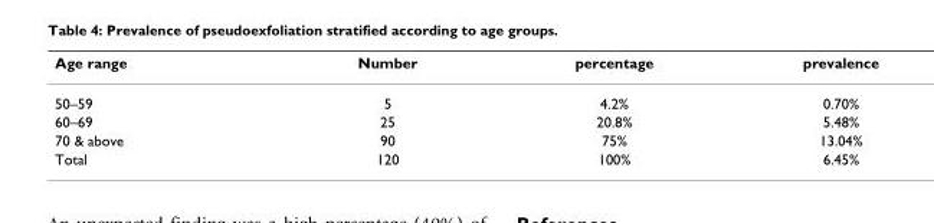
<table><thead><tr><td>Age range</td><td>Number</td><td>percentage</td><td>prevalence</td></tr></thead><tbody><tr><td>50–59</td><td>5</td><td>4.2%</td><td>0.70%</td></tr><tr><td>60–69</td><td>25</td><td>20.8%</td><td>5.48%</td></tr><tr><td>70 &amp; above</td><td>90</td><td>75%</td><td>13.04%</td></tr><tr><td>Total</td><td>120</td><td>100%</td><td>6.45%</td></tr></tbody></table>